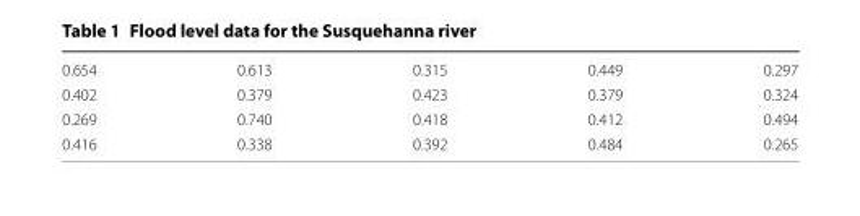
<table><tbody><tr><td>0.654</td><td>0.613</td><td>0.315</td><td>0.449</td><td>0.297</td></tr><tr><td>0.402</td><td>0.379</td><td>0.423</td><td>0.379</td><td>0.324</td></tr><tr><td>0.269</td><td>0.740</td><td>0.418</td><td>0.412</td><td>0.494</td></tr><tr><td>0.416</td><td>0.338</td><td>0.392</td><td>0.484</td><td>0.265</td></tr></tbody></table>